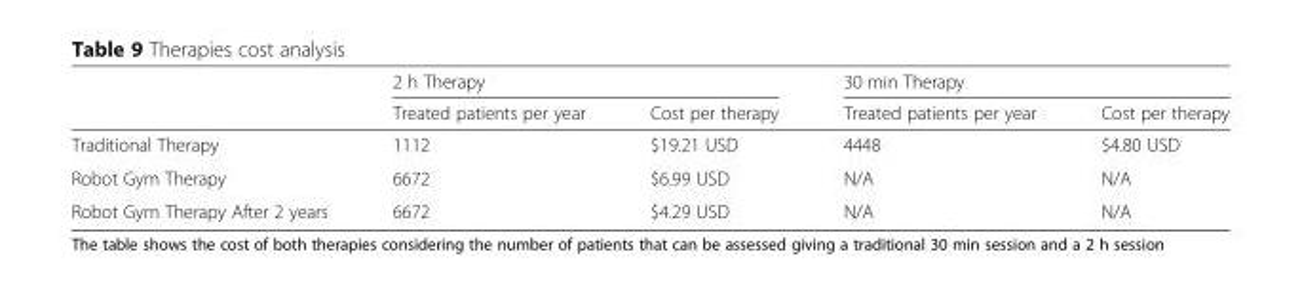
<table><thead><tr><td rowspan="2"></td><td colspan="2">2 h Therapy</td><td colspan="2">30 min Therapy</td></tr><tr><td>Treated patients per year</td><td>Cost per therapy</td><td>Treated patients per year</td><td>Cost per therapy</td></tr></thead><tbody><tr><td>Traditional Therapy</td><td>1112</td><td>$19.21 USD</td><td>4448</td><td>$4.80 USD</td></tr><tr><td>Robot Gym Therapy</td><td>6672</td><td>$6.99 USD</td><td>N/A</td><td>N/A</td></tr><tr><td>Robot Gym Therapy After 2 years</td><td>6672</td><td>$4.29 USD</td><td>N/A</td><td>N/A</td></tr></tbody></table>